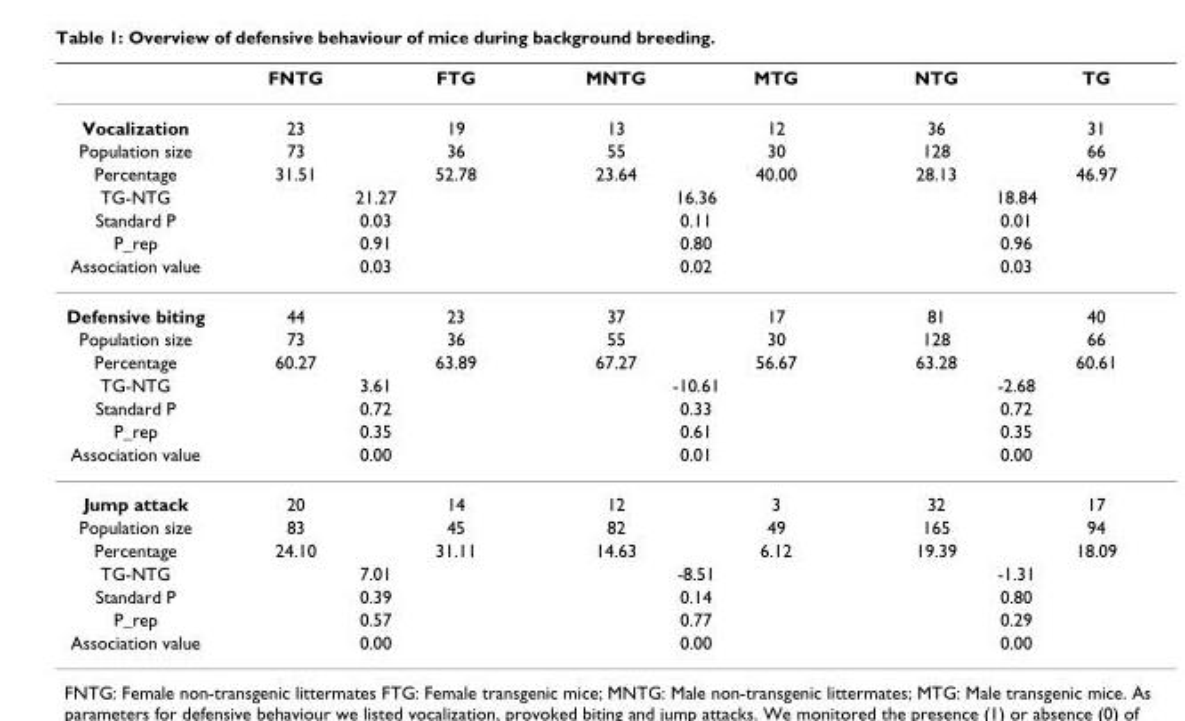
<table><thead><tr><td></td><td>FNTG</td><td>FTG</td><td>MNTG</td><td>MTG</td><td>NTG</td><td>TG</td></tr></thead><tbody><tr><td>Vocalization</td><td>23</td><td>19</td><td>13</td><td>12</td><td>36</td><td>31</td></tr><tr><td>Population size</td><td>73</td><td>36</td><td>55</td><td>30</td><td>128</td><td>66</td></tr><tr><td>Percentage</td><td>31.51</td><td>52.78</td><td>23.64</td><td>40.00</td><td>28.13</td><td>46.97</td></tr><tr><td>TG-NTG</td><td colspan="2">21.27</td><td colspan="2">16.36</td><td colspan="2">18.84</td></tr><tr><td>Standard P</td><td colspan="2">0.03</td><td colspan="2">0.11</td><td colspan="2">0.01</td></tr><tr><td>P_rep</td><td colspan="2">0.91</td><td colspan="2">0.80</td><td colspan="2">0.96</td></tr><tr><td>Association value</td><td colspan="2">0.03</td><td colspan="2">0.02</td><td colspan="2">0.03</td></tr><tr><td>Defensive biting</td><td>44</td><td>23</td><td>37</td><td>17</td><td>81</td><td>40</td></tr><tr><td>Population size</td><td>73</td><td>36</td><td>55</td><td>30</td><td>128</td><td>66</td></tr><tr><td>Percentage</td><td>60.27</td><td>63.89</td><td>67.27</td><td>56.67</td><td>63.28</td><td>60.61</td></tr><tr><td>TG-NTG</td><td colspan="2">3.61</td><td colspan="2">-10.61</td><td colspan="2">-2.68</td></tr><tr><td>Standard P</td><td colspan="2">0.72</td><td colspan="2">0.33</td><td colspan="2">0.72</td></tr><tr><td>P_rep</td><td colspan="2">0.35</td><td colspan="2">0.61</td><td colspan="2">0.35</td></tr><tr><td>Association value</td><td colspan="2">0.00</td><td colspan="2">0.01</td><td colspan="2">0.00</td></tr><tr><td>Jump attack</td><td>20</td><td>14</td><td>12</td><td>3</td><td>32</td><td>17</td></tr><tr><td>Population size</td><td>83</td><td>45</td><td>82</td><td>49</td><td>165</td><td>94</td></tr><tr><td>Percentage</td><td>24.10</td><td>31.11</td><td>14.63</td><td>6.12</td><td>19.39</td><td>18.09</td></tr><tr><td>TG-NTG</td><td colspan="2">7.01</td><td colspan="2">-8.51</td><td colspan="2">-1.31</td></tr><tr><td>Standard P</td><td colspan="2">0.39</td><td colspan="2">0.14</td><td colspan="2">0.80</td></tr><tr><td>P_rep</td><td colspan="2">0.57</td><td colspan="2">0.77</td><td colspan="2">0.29</td></tr><tr><td>Association value</td><td colspan="2">0.00</td><td colspan="2">0.00</td><td colspan="2">0.00</td></tr></tbody></table>